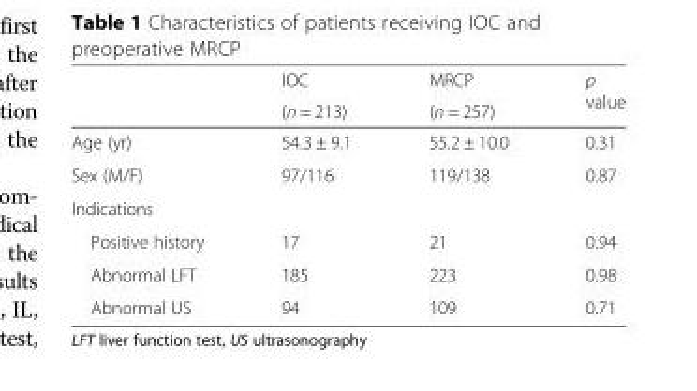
<table><thead><tr><td rowspan="2"></td><td rowspan="2">IOC (n = 213)</td><td rowspan="2">MRCP (n = 257)</td><td rowspan="2">p value</td></tr><tr></tr></thead><tbody><tr><td>Age (yr)</td><td>54.3 ± 9.1</td><td>55.2 ± 10.0</td><td>0.31</td></tr><tr><td>Sex (M/F)</td><td>97/116</td><td>119/138</td><td>0.87</td></tr><tr><td colspan="4">Indications</td></tr><tr><td>Positive history</td><td>17</td><td>21</td><td>0.94</td></tr><tr><td>Abnormal LFT</td><td>185</td><td>223</td><td>0.98</td></tr><tr><td>Abnormal US</td><td>94</td><td>109</td><td>0.71</td></tr></tbody></table>